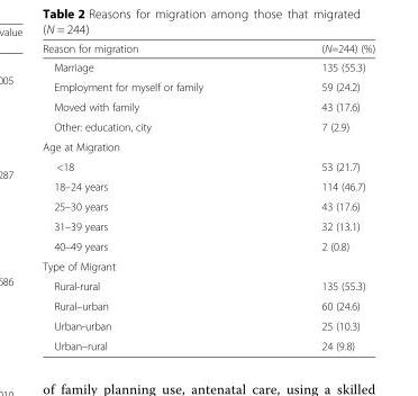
<table><thead><tr><td>Reason for migration</td><td>(N=244) (%)</td></tr></thead><tbody><tr><td>Marriage</td><td>135 (55.3)</td></tr><tr><td>Employment for myself or family</td><td>59 (24.2)</td></tr><tr><td>Moved with family</td><td>43 (17.6)</td></tr><tr><td>Other: education, city</td><td>7 (2.9)</td></tr><tr><td colspan="2">Age at Migration</td></tr><tr><td>&lt;18</td><td>53 (21.7)</td></tr><tr><td>18–24 years</td><td>114 (46.7)</td></tr><tr><td>25–30 years</td><td>43 (17.6)</td></tr><tr><td>31–39 years</td><td>32 (13.1)</td></tr><tr><td>40–49 years</td><td>2 (0.8)</td></tr><tr><td colspan="2">Type of Migrant</td></tr><tr><td>Rural-rural</td><td>135 (55.3)</td></tr><tr><td>Rural–urban</td><td>60 (24.6)</td></tr><tr><td>Urban-urban</td><td>25 (10.3)</td></tr><tr><td>Urban–rural</td><td>24 (9.8)</td></tr></tbody></table>